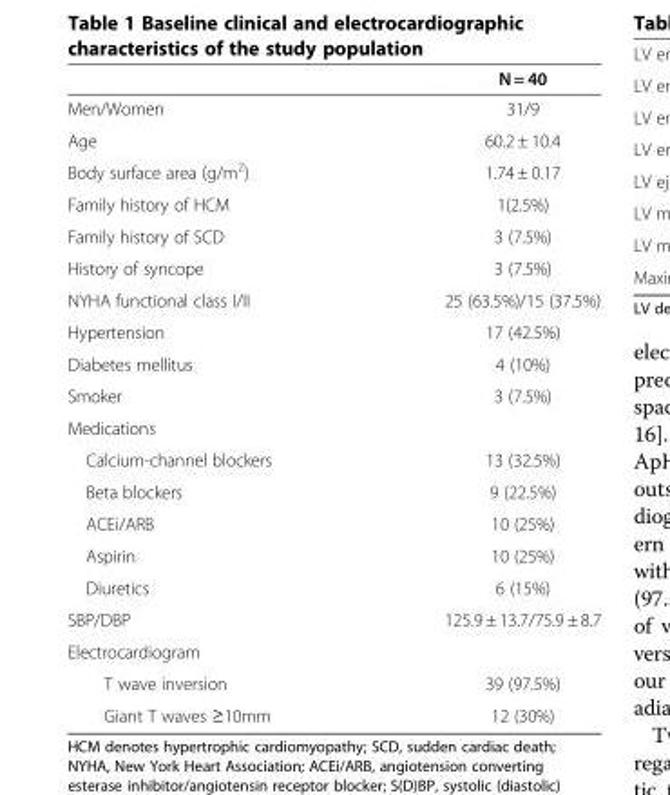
<table><thead><tr><td></td><td>N = 40</td></tr></thead><tbody><tr><td>Men/Women</td><td>31/9</td></tr><tr><td>Age</td><td>60.2 ± 10.4</td></tr><tr><td>Body surface area (g/m<sup>2</sup>)</td><td>1.74 ± 0.17</td></tr><tr><td>Family history of HCM</td><td>1(2.5%)</td></tr><tr><td>Family history of SCD</td><td>3 (7.5%)</td></tr><tr><td>History of syncope</td><td>3 (7.5%)</td></tr><tr><td>NYHA functional class I/II</td><td>25 (63.5%)/15 (37.5%)</td></tr><tr><td>Hypertension</td><td>17 (42.5%)</td></tr><tr><td>Diabetes mellitus</td><td>4 (10%)</td></tr><tr><td>Smoker</td><td>3 (7.5%)</td></tr><tr><td colspan="2">Medications</td></tr><tr><td>Calcium-channel blockers</td><td>13 (32.5%)</td></tr><tr><td>Beta blockers</td><td>9 (22.5%)</td></tr><tr><td>ACEi/ARB</td><td>10 (25%)</td></tr><tr><td>Aspirin</td><td>10 (25%)</td></tr><tr><td>Diuretics</td><td>6 (15%)</td></tr><tr><td>SBP/DBP</td><td>125.9 ± 13.7/75.9 ± 8.7</td></tr><tr><td colspan="2">Electrocardiogram</td></tr><tr><td>T wave inversion</td><td>39 (97.5%)</td></tr><tr><td>Giant T waves ≥10mm</td><td>12 (30%)</td></tr></tbody></table>